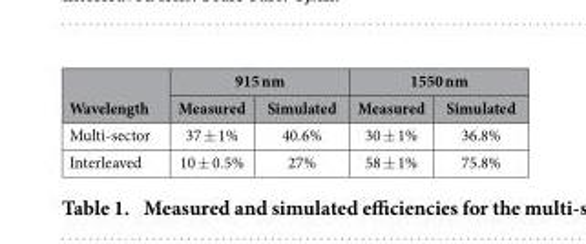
<table><thead><tr><td rowspan="2">Wavelength</td><td colspan="2">915 nm</td><td colspan="2">1550 nm</td></tr><tr><td>Measured</td><td>Simulated</td><td>Measured</td><td>Simulated</td></tr></thead><tbody><tr><td>Multi-sector</td><td>37 ± 1%</td><td>40.6%</td><td>30 ± 1%</td><td>36.8%</td></tr><tr><td>Interleaved</td><td>10 ± 0.5%</td><td>27%</td><td>58 ± 1%</td><td>75.8%</td></tr></tbody></table>